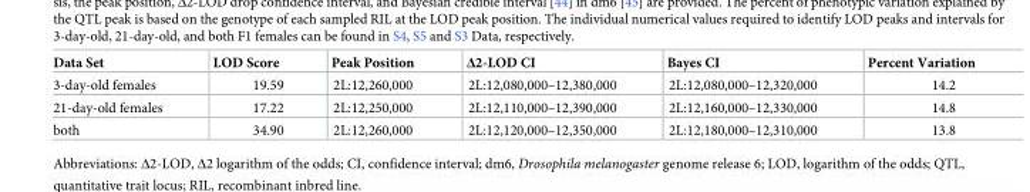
<table><thead><tr><td>Data Set</td><td>LOD Score</td><td>Peak Position</td><td>Δ2-LOD CI</td><td>Bayes CI</td><td>Percent Variation</td></tr></thead><tbody><tr><td>3-day-old females</td><td>19.59</td><td>2L:12,260,000</td><td>2L:12,080,000–12,380,000</td><td>2L:12,080,000–12,320,000</td><td>14.2</td></tr><tr><td>21-day-old females</td><td>17.22</td><td>2L:12,250,000</td><td>2L:12,110,000–12,390,000</td><td>2L:12,160,000–12,330,000</td><td>14.8</td></tr><tr><td>both</td><td>34.90</td><td>2L:12,260,000</td><td>2L:12,120,000–12,350,000</td><td>2L:12,180,000–12,310,000</td><td>13.8</td></tr></tbody></table>